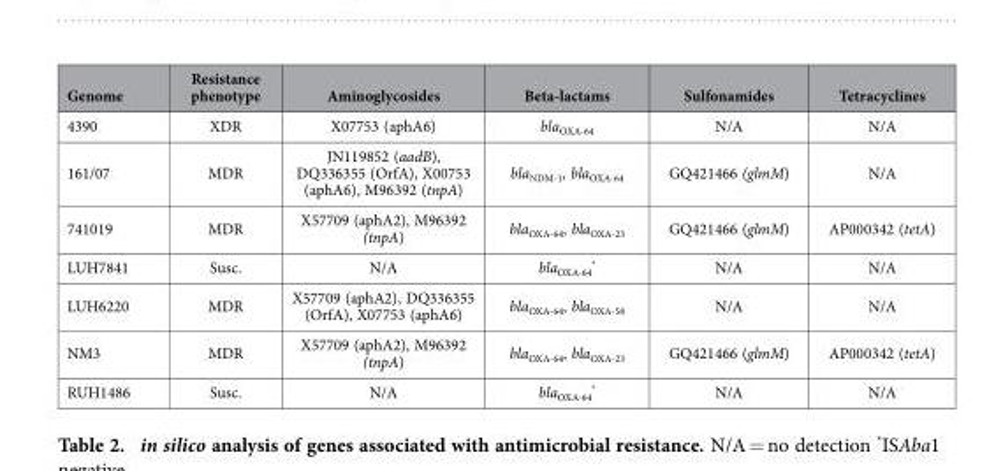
<table><thead><tr><td>Genome</td><td>Resistance phenotype</td><td>Aminoglycosides</td><td>Beta-lactams</td><td>Sulfonamides</td><td>Tetracyclines</td></tr></thead><tbody><tr><td>4390</td><td>XDR</td><td>X07753 (aphA6)</td><td>bla<sub>OXA-64</sub></td><td>N/A</td><td>N/A</td></tr><tr><td>161/07</td><td>MDR</td><td>JN119852 (aadB), DQ336355 (OrfA), X00753 (aphA6), M96392 (tnpA)</td><td>bla<sub>NDM-1</sub>, bla<sub>OXA-64</sub></td><td>GQ421466 (glmM)</td><td>N/A</td></tr><tr><td>741019</td><td>MDR</td><td>X57709 (aphA2), M96392 (tnpA)</td><td>bla<sub>OXA-64</sub>, bla<sub>OXA-23</sub></td><td>GQ421466 (glmM)</td><td>AP000342 (tetA)</td></tr><tr><td>LUH7841</td><td>Susc.</td><td>N/A</td><td>bla<sub>OXA-64</sub> *</td><td>N/A</td><td>N/A</td></tr><tr><td>LUH6220</td><td>MDR</td><td>X57709 (aphA2), DQ336355 (OrfA), X07753 (aphA6)</td><td>bla<sub>OXA-64</sub>, bla<sub>OXA-58</sub></td><td>N/A</td><td>N/A</td></tr><tr><td>NM3</td><td>MDR</td><td>X57709 (aphA2), M96392 (tnpA)</td><td>bla<sub>OXA-64</sub>, bla<sub>OXA-23</sub></td><td>GQ421466 (glmM)</td><td>AP000342 (tetA)</td></tr><tr><td>RUH1486</td><td>Susc.</td><td>N/A</td><td>bla<sub>OXA-64</sub> *</td><td>N/A</td><td>N/A</td></tr></tbody></table>